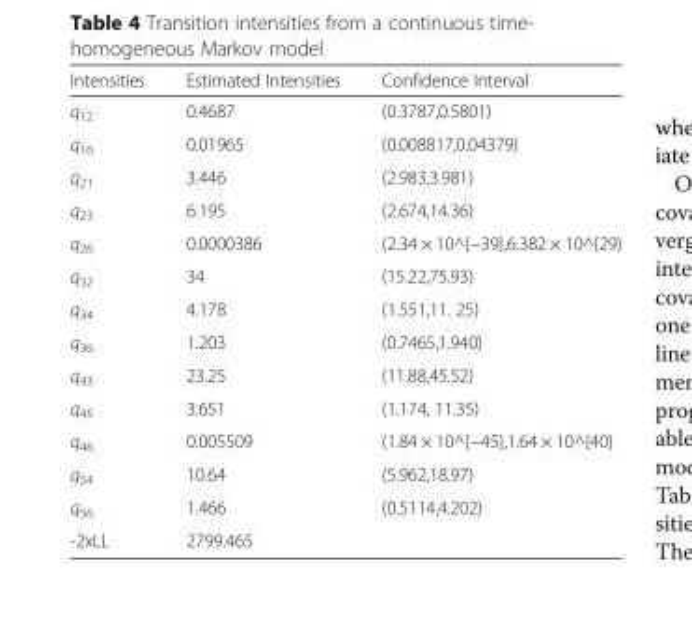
<table><thead><tr><td>Intensities</td><td>Estimated Intensities</td><td>Confidence Interval</td></tr></thead><tbody><tr><td>q<sub>12</sub></td><td>0.4687</td><td>(0.3787,0.5801)</td></tr><tr><td>q<sub>16</sub></td><td>0.01965</td><td>(0.008817,0.04379)</td></tr><tr><td>q<sub>21</sub></td><td>3.446</td><td>(2.983,3.981)</td></tr><tr><td>q<sub>23</sub></td><td>6.195</td><td>(2.674,14.36)</td></tr><tr><td>q<sub>26</sub></td><td>0.0000386</td><td>(2.34 × 10^{−39},6.382 × 10^{29)</td></tr><tr><td>q<sub>32</sub></td><td>34</td><td>(15.22,75.93)</td></tr><tr><td>q<sub>34</sub></td><td>4.178</td><td>(1.551,11. 25)</td></tr><tr><td>q<sub>36</sub></td><td>1.203</td><td>(0.7465,1.940)</td></tr><tr><td>q<sub>43</sub></td><td>23.25</td><td>(11.88,45.52)</td></tr><tr><td>q<sub>45</sub></td><td>3.651</td><td>(1.174, 11.35)</td></tr><tr><td>q<sub>46</sub></td><td>0.005509</td><td>(1.84 × 10^{−45},1.64 × 10^{40}</td></tr><tr><td>q<sub>54</sub></td><td>10.64</td><td>(5.962,18.97)</td></tr><tr><td>q<sub>56</sub></td><td>1.466</td><td>(0.5114,4.202)</td></tr><tr><td>-2xLL</td><td colspan="2">2799.465</td></tr></tbody></table>